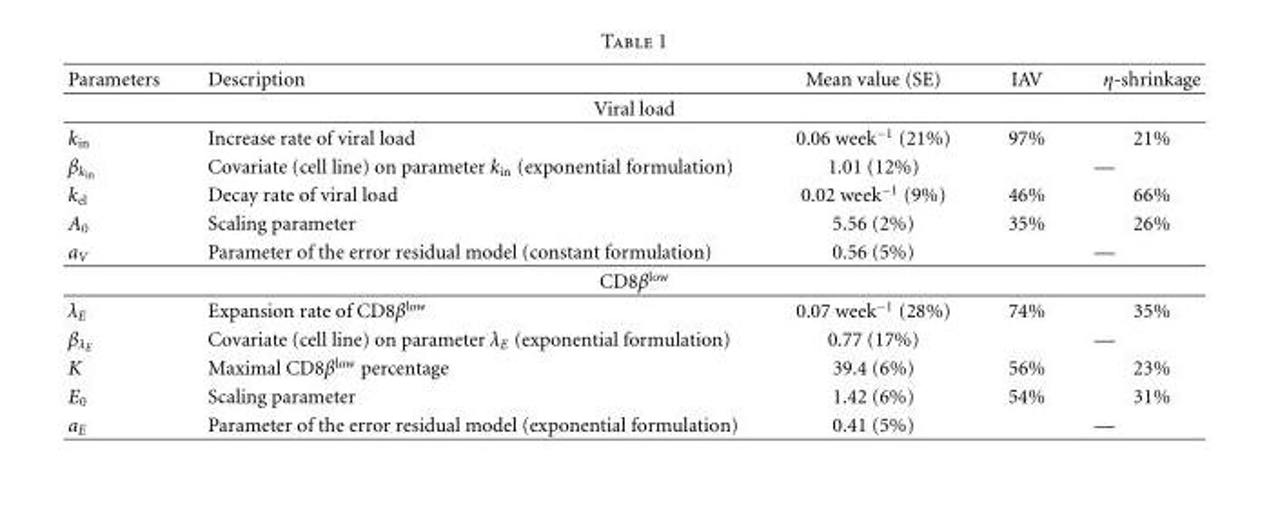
<table><thead><tr><td>Parameters</td><td>Description</td><td>Mean value (SE)</td><td>IAV</td><td>η-shrinkage</td></tr></thead><tbody><tr><td colspan="5">Viral load</td></tr><tr><td>k<sub>in</sub></td><td>Increase rate of viral load</td><td>0.06 week<sup>−1</sup> (21%)</td><td>97%</td><td>21%</td></tr><tr><td>βkin</td><td>Covariate (cell line) on parameter k<sub>in</sub> (exponential formulation)</td><td>1.01 (12%)</td><td colspan="2">—</td></tr><tr><td>k<sub>el</sub></td><td>Decay rate of viral load</td><td>0.02 week<sup>−1</sup> (9%)</td><td>46%</td><td>66%</td></tr><tr><td>A<sub>0</sub></td><td>Scaling parameter</td><td>5.56 (2%)</td><td>35%</td><td>26%</td></tr><tr><td>a<sub>V</sub></td><td>Parameter of the error residual model (constant formulation)</td><td>0.56 (5%)</td><td colspan="2">—</td></tr><tr><td colspan="5">CD8β<sup>low</sup></td></tr><tr><td>λ<sub>E</sub></td><td>Expansion rate of CD8β<sup>low</sup></td><td>0.07 week<sup>−1</sup> (28%)</td><td>74%</td><td>35%</td></tr><tr><td>βλE</td><td>Covariate (cell line) on parameter λ<sub>E</sub> (exponential formulation)</td><td>0.77 (17%)</td><td colspan="2">—</td></tr><tr><td>K</td><td>Maximal CD8β<sup>low</sup> percentage</td><td>39.4 (6%)</td><td>56%</td><td>23%</td></tr><tr><td>E<sub>0</sub></td><td>Scaling parameter</td><td>1.42 (6%)</td><td>54%</td><td>31%</td></tr><tr><td>a<sub>E</sub></td><td>Parameter of the error residual model (exponential formulation)</td><td>0.41 (5%)</td><td colspan="2">—</td></tr></tbody></table>